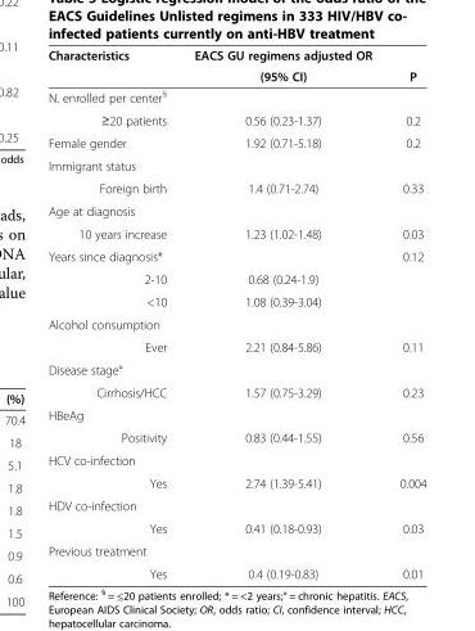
<table><thead><tr><td rowspan="2">Characteristics</td><td rowspan="2">EACS GU regimens adjusted OR (95% CI)</td><td rowspan="2">P</td></tr><tr></tr></thead><tbody><tr><td colspan="3">N. enrolled per center<sup>§</sup></td></tr><tr><td>≥20 patients</td><td>0.56 (0.23-1.37)</td><td>0.2</td></tr><tr><td>Female gender</td><td>1.92 (0.71-5.18)</td><td>0.2</td></tr><tr><td colspan="3">Immigrant status</td></tr><tr><td>Foreign birth</td><td>1.4 (0.71-2.74)</td><td>0.33</td></tr><tr><td colspan="3">Age at diagnosis</td></tr><tr><td>10 years increase</td><td>1.23 (1.02-1.48)</td><td>0.03</td></tr><tr><td colspan="2">Years since diagnosis*</td><td rowspan="3">0.12</td></tr><tr><td>2-10</td><td>0.68 (0.24-1.9)</td></tr><tr><td>&lt;10</td><td>1.08 (0.39-3.04)</td></tr><tr><td colspan="3">Alcohol consumption</td></tr><tr><td>Ever</td><td>2.21 (0.84-5.86)</td><td>0.11</td></tr><tr><td colspan="3">Disease stage°</td></tr><tr><td>Cirrhosis/HCC</td><td>1.57 (0.75-3.29)</td><td>0.23</td></tr><tr><td colspan="3">HBeAg</td></tr><tr><td>Positivity</td><td>0.83 (0.44-1.55)</td><td>0.56</td></tr><tr><td colspan="3">HCV co-infection</td></tr><tr><td>Yes</td><td>2.74 (1.39-5.41)</td><td>0.004</td></tr><tr><td colspan="3">HDV co-infection</td></tr><tr><td>Yes</td><td>0.41 (0.18-0.93)</td><td>0.03</td></tr><tr><td colspan="3">Previous treatment</td></tr><tr><td>Yes</td><td>0.4 (0.19-0.83)</td><td>0.01</td></tr></tbody></table>